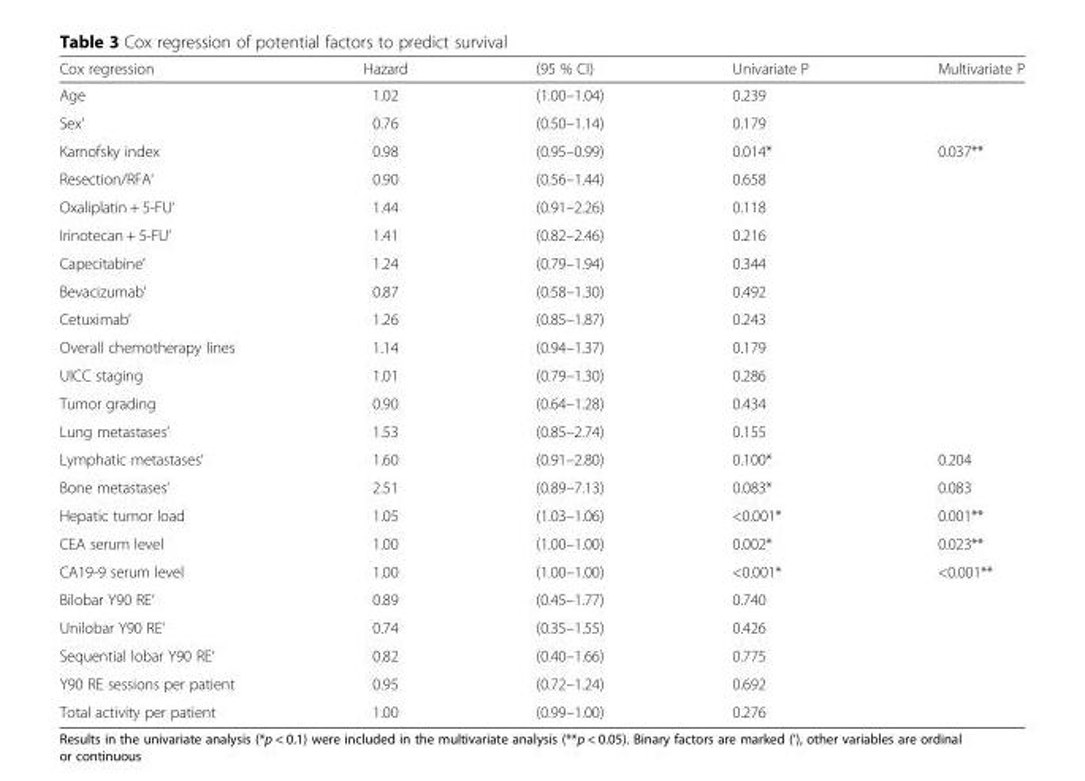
<table><thead><tr><td>Cox regression</td><td>Hazard</td><td>(95 % CI)</td><td>Univariate P</td><td>Multivariate P</td></tr></thead><tbody><tr><td>Age</td><td>1.02</td><td>(1.00–1.04)</td><td>0.239</td><td></td></tr><tr><td>Sex‘</td><td>0.76</td><td>(0.50–1.14)</td><td>0.179</td><td></td></tr><tr><td>Karnofsky index</td><td>0.98</td><td>(0.95–0.99)</td><td>0.014*</td><td>0.037**</td></tr><tr><td>Resection/RFA‘</td><td>0.90</td><td>(0.56–1.44)</td><td>0.658</td><td></td></tr><tr><td>Oxaliplatin + 5-FU‘</td><td>1.44</td><td>(0.91–2.26)</td><td>0.118</td><td></td></tr><tr><td>Irinotecan + 5-FU‘</td><td>1.41</td><td>(0.82–2.46)</td><td>0.216</td><td></td></tr><tr><td>Capecitabine‘</td><td>1.24</td><td>(0.79–1.94)</td><td>0.344</td><td></td></tr><tr><td>Bevacizumab‘</td><td>0.87</td><td>(0.58–1.30)</td><td>0.492</td><td></td></tr><tr><td>Cetuximab‘</td><td>1.26</td><td>(0.85–1.87)</td><td>0.243</td><td></td></tr><tr><td>Overall chemotherapy lines</td><td>1.14</td><td>(0.94–1.37)</td><td>0.179</td><td></td></tr><tr><td>UICC staging</td><td>1.01</td><td>(0.79–1.30)</td><td>0.286</td><td></td></tr><tr><td>Tumor grading</td><td>0.90</td><td>(0.64–1.28)</td><td>0.434</td><td></td></tr><tr><td>Lung metastases‘</td><td>1.53</td><td>(0.85–2.74)</td><td>0.155</td><td></td></tr><tr><td>Lymphatic metastases‘</td><td>1.60</td><td>(0.91–2.80)</td><td>0.100*</td><td>0.204</td></tr><tr><td>Bone metastases‘</td><td>2.51</td><td>(0.89–7.13)</td><td>0.083*</td><td>0.083</td></tr><tr><td>Hepatic tumor load</td><td>1.05</td><td>(1.03–1.06)</td><td>&lt;0.001*</td><td>0.001**</td></tr><tr><td>CEA serum level</td><td>1.00</td><td>(1.00–1.00)</td><td>0.002*</td><td>0.023**</td></tr><tr><td>CA19-9 serum level</td><td>1.00</td><td>(1.00–1.00)</td><td>&lt;0.001*</td><td>&lt;0.001**</td></tr><tr><td>Bilobar Y90 RE‘</td><td>0.89</td><td>(0.45–1.77)</td><td>0.740</td><td></td></tr><tr><td>Unilobar Y90 RE‘</td><td>0.74</td><td>(0.35–1.55)</td><td>0.426</td><td></td></tr><tr><td>Sequential lobar Y90 RE‘</td><td>0.82</td><td>(0.40–1.66)</td><td>0.775</td><td></td></tr><tr><td>Y90 RE sessions per patient</td><td>0.95</td><td>(0.72–1.24)</td><td>0.692</td><td></td></tr><tr><td>Total activity per patient</td><td>1.00</td><td>(0.99–1.00)</td><td>0.276</td><td></td></tr></tbody></table>